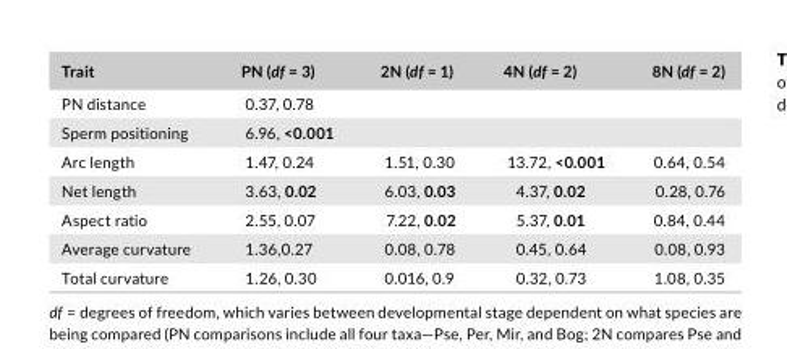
<table><thead><tr><td>Trait</td><td>PN (df = 3)</td><td>2N (df = 1)</td><td>4N (df = 2)</td><td>8N (df = 2)</td></tr></thead><tbody><tr><td>PN distance</td><td>0.37, 0.78</td><td></td><td></td><td></td></tr><tr><td>Sperm positioning</td><td>6.96, &lt;0.001</td><td></td><td></td><td></td></tr><tr><td>Arc length</td><td>1.47, 0.24</td><td>1.51, 0.30</td><td>13.72, &lt;0.001</td><td>0.64, 0.54</td></tr><tr><td>Net length</td><td>3.63, 0.02</td><td>6.03, 0.03</td><td>4.37, 0.02</td><td>0.28, 0.76</td></tr><tr><td>Aspect ratio</td><td>2.55, 0.07</td><td>7.22, 0.02</td><td>5.37, 0.01</td><td>0.84, 0.44</td></tr><tr><td>Average curvature</td><td>1.36,0.27</td><td>0.08, 0.78</td><td>0.45, 0.64</td><td>0.08, 0.93</td></tr><tr><td>Total curvature</td><td>1.26, 0.30</td><td>0.016, 0.9</td><td>0.32, 0.73</td><td>1.08, 0.35</td></tr></tbody></table>